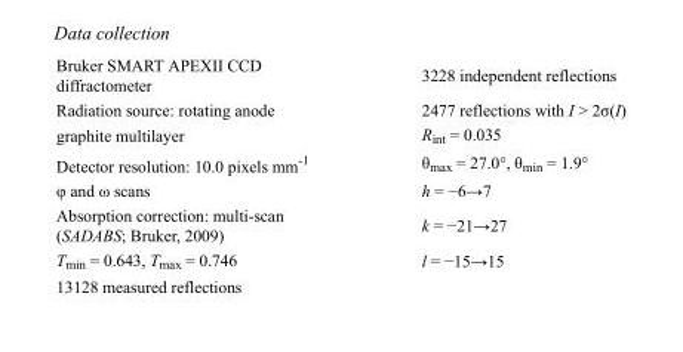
<table><tbody><tr><td>Bruker SMART APEXII CCD diffractometer</td><td>3228 independent reflections</td></tr><tr><td>Radiation source: rotating anode</td><td>2477 reflections with I &gt; 2σ(I)</td></tr><tr><td>graphite multilayer</td><td>R<sub>int</sub> = 0.035</td></tr><tr><td>Detector resolution: 10.0 pixels mm<sup>-1</sup></td><td>θ<sub>max</sub> = 27.0°, θ<sub>min</sub> = 1.9°</td></tr><tr><td>φ and ω scans</td><td>h = −6→7</td></tr><tr><td>Absorption correction: multi-scan (SADABS; Bruker, 2009)</td><td>k = −21→27</td></tr><tr><td>T<sub>min</sub> = 0.643, T<sub>max</sub> = 0.746</td><td>l = −15→15</td></tr><tr><td>13128 measured reflections</td><td></td></tr></tbody></table>